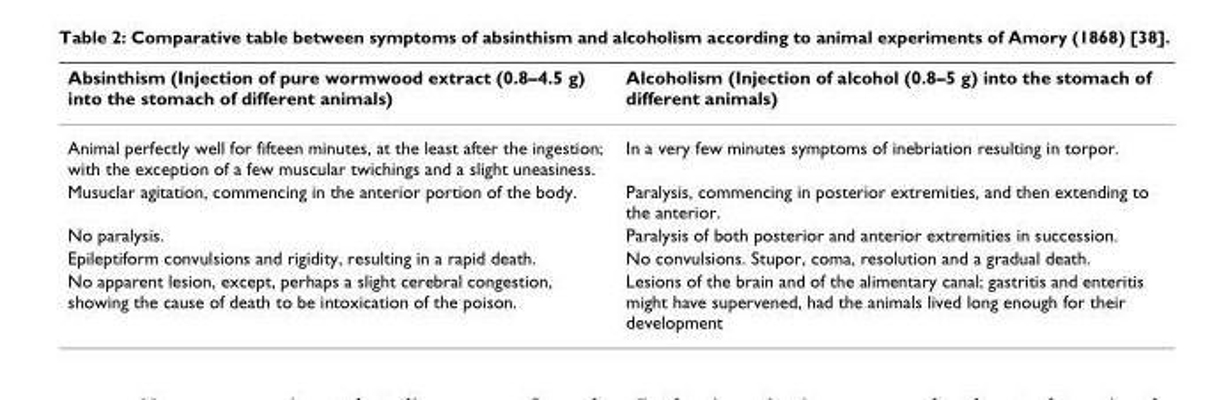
<table><thead><tr><td>Absinthism (Injection of pure wormwood extract (0.8–4.5 g) into the stomach of different animals)</td><td>Alcoholism (Injection of alcohol (0.8–5 g) into the stomach of different animals)</td></tr></thead><tbody><tr><td>Animal perfectly well for fifteen minutes, at the least after the ingestion; with the exception of a few muscular twichings and a slight uneasiness.</td><td>In a very few minutes symptoms of inebriation resulting in torpor.</td></tr><tr><td>Musuclar agitation, commencing in the anterior portion of the body.</td><td>Paralysis, commencing in posterior extremities, and then extending to the anterior.</td></tr><tr><td>No paralysis.</td><td>Paralysis of both posterior and anterior extremities in succession.</td></tr><tr><td>Epileptiform convulsions and rigidity, resulting in a rapid death.</td><td>No convulsions. Stupor, coma, resolution and a gradual death.</td></tr><tr><td>No apparent lesion, except, perhaps a slight cerebral congestion, showing the cause of death to be intoxication of the poison.</td><td>Lesions of the brain and of the alimentary canal; gastritis and enteritis might have supervened, had the animals lived long enough for their development</td></tr></tbody></table>